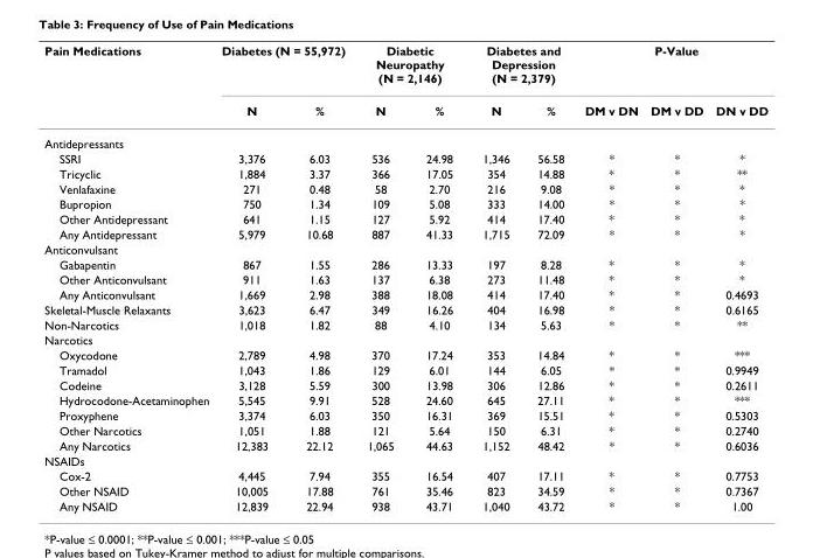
<table><thead><tr><td rowspan="2">Pain Medications</td><td colspan="2">Diabetes (N = 55,972)</td><td colspan="2">Diabetic Neuropathy (N = 2,146)</td><td colspan="2">Diabetes and Depression (N = 2,379)</td><td colspan="3">P-Value</td></tr><tr><td>N</td><td>%</td><td>N</td><td>%</td><td>N</td><td>%</td><td>DM v DN</td><td>DM v DD</td><td>DN v DD</td></tr></thead><tbody><tr><td colspan="10">Antidepressants</td></tr><tr><td>SSRI</td><td>3,376</td><td>6.03</td><td>536</td><td>24.98</td><td>1,346</td><td>56.58</td><td>*</td><td>*</td><td>*</td></tr><tr><td>Tricyclic</td><td>1,884</td><td>3.37</td><td>366</td><td>17.05</td><td>354</td><td>14.88</td><td>*</td><td>*</td><td>**</td></tr><tr><td>Venlafaxine</td><td>271</td><td>0.48</td><td>58</td><td>2.70</td><td>216</td><td>9.08</td><td>*</td><td>*</td><td>*</td></tr><tr><td>Bupropion</td><td>750</td><td>1.34</td><td>109</td><td>5.08</td><td>333</td><td>14.00</td><td>*</td><td>*</td><td>*</td></tr><tr><td>Other Antidepressant</td><td>641</td><td>1.15</td><td>127</td><td>5.92</td><td>414</td><td>17.40</td><td>*</td><td>*</td><td>*</td></tr><tr><td>Any Antidepressant</td><td>5,979</td><td>10.68</td><td>887</td><td>41.33</td><td>1,715</td><td>72.09</td><td>*</td><td>*</td><td>*</td></tr><tr><td colspan="10">Anticonvulsant</td></tr><tr><td>Gabapentin</td><td>867</td><td>1.55</td><td>286</td><td>13.33</td><td>197</td><td>8.28</td><td>*</td><td>*</td><td>*</td></tr><tr><td>Other Anticonvulsant</td><td>911</td><td>1.63</td><td>137</td><td>6.38</td><td>273</td><td>11.48</td><td>*</td><td>*</td><td>*</td></tr><tr><td>Any Anticonvulsant</td><td>1,669</td><td>2.98</td><td>388</td><td>18.08</td><td>414</td><td>17.40</td><td>*</td><td>*</td><td>0.4693</td></tr><tr><td>Skeletal-Muscle Relaxants</td><td>3,623</td><td>6.47</td><td>349</td><td>16.26</td><td>404</td><td>16.98</td><td>*</td><td>*</td><td>0.6165</td></tr><tr><td>Non-Narcotics</td><td>1,018</td><td>1.82</td><td>88</td><td>4.10</td><td>134</td><td>5.63</td><td>*</td><td>*</td><td>**</td></tr><tr><td colspan="10">Narcotics</td></tr><tr><td>Oxycodone</td><td>2,789</td><td>4.98</td><td>370</td><td>17.24</td><td>353</td><td>14.84</td><td>*</td><td>*</td><td>***</td></tr><tr><td>Tramadol</td><td>1,043</td><td>1.86</td><td>129</td><td>6.01</td><td>144</td><td>6.05</td><td>*</td><td>*</td><td>0.9949</td></tr><tr><td>Codeine</td><td>3,128</td><td>5.59</td><td>300</td><td>13.98</td><td>306</td><td>12.86</td><td>*</td><td>*</td><td>0.2611</td></tr><tr><td>Hydrocodone-Acetaminophen</td><td>5,545</td><td>9.91</td><td>528</td><td>24.60</td><td>645</td><td>27.11</td><td>*</td><td>*</td><td>***</td></tr><tr><td>Proxyphene</td><td>3,374</td><td>6.03</td><td>350</td><td>16.31</td><td>369</td><td>15.51</td><td>*</td><td>*</td><td>0.5303</td></tr><tr><td>Other Narcotics</td><td>1,051</td><td>1.88</td><td>121</td><td>5.64</td><td>150</td><td>6.31</td><td>*</td><td>*</td><td>0.2740</td></tr><tr><td>Any Narcotics</td><td>12,383</td><td>22.12</td><td>1,065</td><td>44.63</td><td>1,152</td><td>48.42</td><td>*</td><td>*</td><td>0.6036</td></tr><tr><td colspan="10">NSAIDs</td></tr><tr><td>Cox-2</td><td>4,445</td><td>7.94</td><td>355</td><td>16.54</td><td>407</td><td>17.11</td><td>*</td><td>*</td><td>0.7753</td></tr><tr><td>Other NSAID</td><td>10,005</td><td>17.88</td><td>761</td><td>35.46</td><td>823</td><td>34.59</td><td>*</td><td>*</td><td>0.7367</td></tr><tr><td>Any NSAID</td><td>12,839</td><td>22.94</td><td>938</td><td>43.71</td><td>1,040</td><td>43.72</td><td>*</td><td>*</td><td>1.00</td></tr></tbody></table>